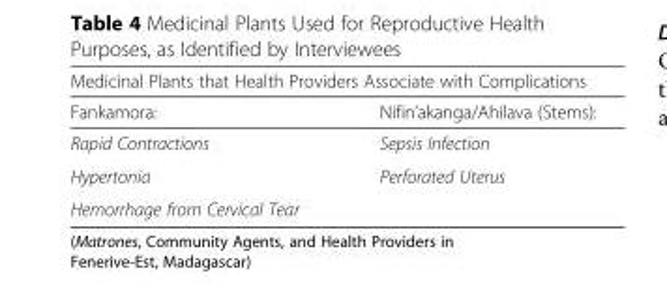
<table><thead><tr><td colspan="2">Medicinal Plants that Health Providers Associate with Complications</td></tr><tr><td>Fankamora:</td><td>Nifin’akanga/Ahilava (Stems):</td></tr></thead><tbody><tr><td>Rapid Contractions</td><td>Sepsis Infection</td></tr><tr><td>Hypertonia</td><td rowspan="2">Perforated Uterus</td></tr><tr><td>Hemorrhage from Cervical Tear</td></tr></tbody></table>